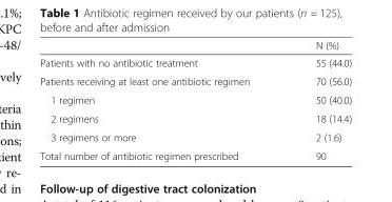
<table><thead><tr><td></td><td>N (%)</td></tr></thead><tbody><tr><td>Patients with no antibiotic treatment</td><td>55 (44.0)</td></tr><tr><td>Patients receiving at least one antibiotic regimen</td><td>70 (56.0)</td></tr><tr><td>1 regimen</td><td>50 (40.0)</td></tr><tr><td>2 regimens</td><td>18 (14.4)</td></tr><tr><td>3 regimens or more</td><td>2 (1.6)</td></tr><tr><td>Total number of antibiotic regimen prescribed</td><td>90</td></tr></tbody></table>